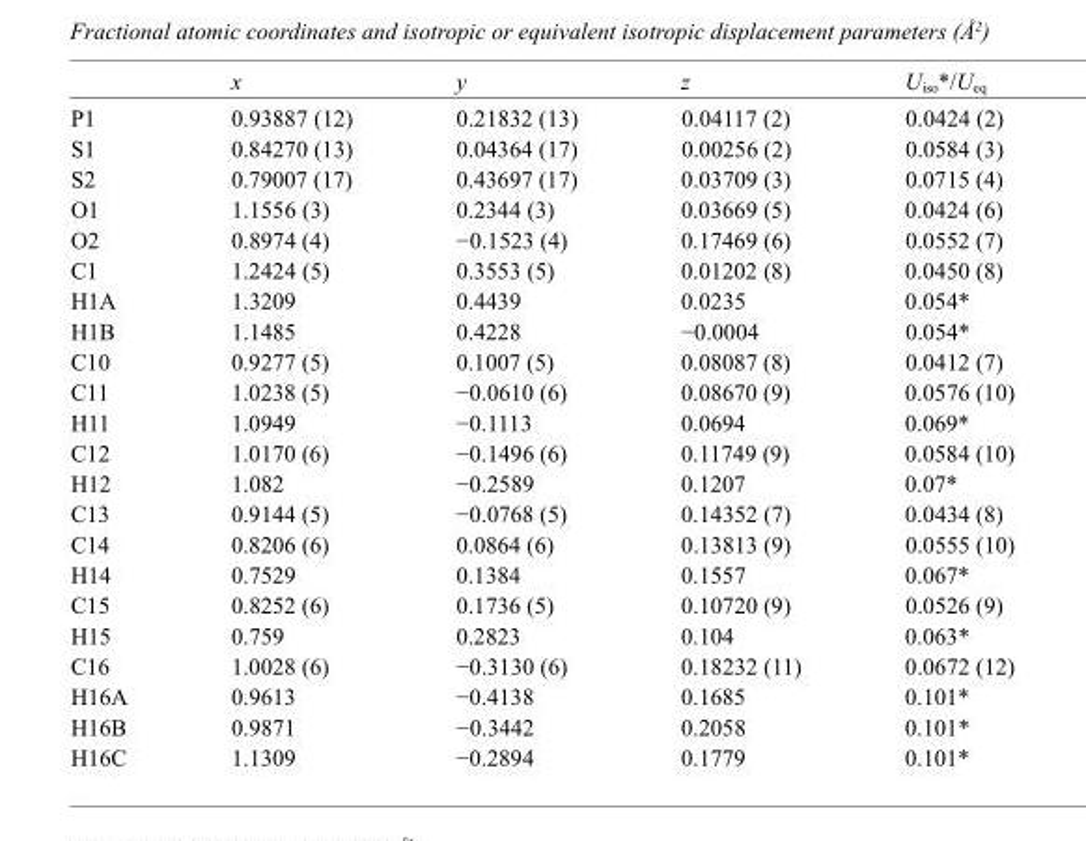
<table><thead><tr><td></td><td>x</td><td>y</td><td>z</td><td>U<sub>iso</sub>*/U<sub>eq</sub></td></tr></thead><tbody><tr><td>P1</td><td>0.93887 (12)</td><td>0.21832 (13)</td><td>0.04117 (2)</td><td>0.0424 (2)</td></tr><tr><td>S1</td><td>0.84270 (13)</td><td>0.04364 (17)</td><td>0.00256 (2)</td><td>0.0584 (3)</td></tr><tr><td>S2</td><td>0.79007 (17)</td><td>0.43697 (17)</td><td>0.03709 (3)</td><td>0.0715 (4)</td></tr><tr><td>O1</td><td>1.1556 (3)</td><td>0.2344 (3)</td><td>0.03669 (5)</td><td>0.0424 (6)</td></tr><tr><td>O2</td><td>0.8974 (4)</td><td>−0.1523 (4)</td><td>0.17469 (6)</td><td>0.0552 (7)</td></tr><tr><td>C1</td><td>1.2424 (5)</td><td>0.3553 (5)</td><td>0.01202 (8)</td><td>0.0450 (8)</td></tr><tr><td>H1A</td><td>1.3209</td><td>0.4439</td><td>0.0235</td><td>0.054*</td></tr><tr><td>H1B</td><td>1.1485</td><td>0.4228</td><td>−0.0004</td><td>0.054*</td></tr><tr><td>C10</td><td>0.9277 (5)</td><td>0.1007 (5)</td><td>0.08087 (8)</td><td>0.0412 (7)</td></tr><tr><td>C11</td><td>1.0238 (5)</td><td>−0.0610 (6)</td><td>0.08670 (9)</td><td>0.0576 (10)</td></tr><tr><td>H11</td><td>1.0949</td><td>−0.1113</td><td>0.0694</td><td>0.069*</td></tr><tr><td>C12</td><td>1.0170 (6)</td><td>−0.1496 (6)</td><td>0.11749 (9)</td><td>0.0584 (10)</td></tr><tr><td>H12</td><td>1.082</td><td>−0.2589</td><td>0.1207</td><td>0.07*</td></tr><tr><td>C13</td><td>0.9144 (5)</td><td>−0.0768 (5)</td><td>0.14352 (7)</td><td>0.0434 (8)</td></tr><tr><td>C14</td><td>0.8206 (6)</td><td>0.0864 (6)</td><td>0.13813 (9)</td><td>0.0555 (10)</td></tr><tr><td>H14</td><td>0.7529</td><td>0.1384</td><td>0.1557</td><td>0.067*</td></tr><tr><td>C15</td><td>0.8252 (6)</td><td>0.1736 (5)</td><td>0.10720 (9)</td><td>0.0526 (9)</td></tr><tr><td>H15</td><td>0.759</td><td>0.2823</td><td>0.104</td><td>0.063*</td></tr><tr><td>C16</td><td>1.0028 (6)</td><td>−0.3130 (6)</td><td>0.18232 (11)</td><td>0.0672 (12)</td></tr><tr><td>H16A</td><td>0.9613</td><td>−0.4138</td><td>0.1685</td><td>0.101*</td></tr><tr><td>H16B</td><td>0.9871</td><td>−0.3442</td><td>0.2058</td><td>0.101*</td></tr><tr><td>H16C</td><td>1.1309</td><td>−0.2894</td><td>0.1779</td><td>0.101*</td></tr></tbody></table>